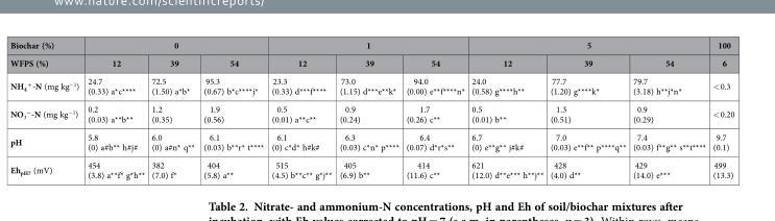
<table><thead><tr><td rowspan="2">Biochar (%) WFPS (%)</td><td colspan="3">0</td><td colspan="3">1</td><td colspan="3">5</td><td rowspan="2">100 6</td></tr><tr><td>12</td><td>39</td><td>54</td><td>12</td><td>39</td><td>54</td><td>12</td><td>39</td><td>54</td></tr></thead><tbody><tr><td>NH<sub>4</sub> <sup>+</sup> -N (mg kg<sup>−1</sup>)</td><td>24.7 (0.33) a*c****</td><td>72.5 (1.50) a*b*</td><td>95.3 (0.67) b*c****j*</td><td>23.3 (0.33) d***f****</td><td>73.0 (1.15) d***e**k*</td><td>94.0 (0.00) e**f****n*</td><td>24.0 (0.58) g****h**</td><td>77.7 (1.20) g****k*</td><td>79.7 (3.18) h**j*n*</td><td>&lt; 0.3</td></tr><tr><td>NO<sub>3</sub> <sup>−</sup>-N (mg kg<sup>−1</sup>)</td><td>0.2 (0.03) a**b**</td><td>1.2 (0.35)</td><td>1.9 (0.56)</td><td>0.5 (0.01) a**c**</td><td>0.9 (0.24)</td><td>1.7 (0.26) c**</td><td>0.5 (0.01) b**</td><td>1.3 (0.51)</td><td>0.9 (0.29)</td><td>&lt; 0.20</td></tr><tr><td>pH</td><td>5.8 (0) a#b** h#j#</td><td>6.0 (0) a#n* q**</td><td>6.1 (0.03) b**r* t****</td><td>6.1 (0) c*d* h#k#</td><td>6.3 (0.03) c*n* p****</td><td>6.4 (0.07) d*r*s**</td><td>6.7 (0) e**g** j#k#</td><td>7.0 (0.03) e**f** p****q**</td><td>7.4 (0.03) f**g** s**t****</td><td>9.7 (0.1)</td></tr><tr><td>Eh<sub>pH7</sub> (mV)</td><td>454 (3.8) a**f* g*h**</td><td>382 (7.0) f*</td><td>404 (5.8) a**</td><td>515 (4.5) b**c** g*j**</td><td>405 (6.9) b**</td><td>414 (11.6) c**</td><td>621 (12.0) d**e*** h**j**</td><td>428 (4.0) d**</td><td>429 (14.0) e***</td><td>499 (13.3)</td></tr></tbody></table>